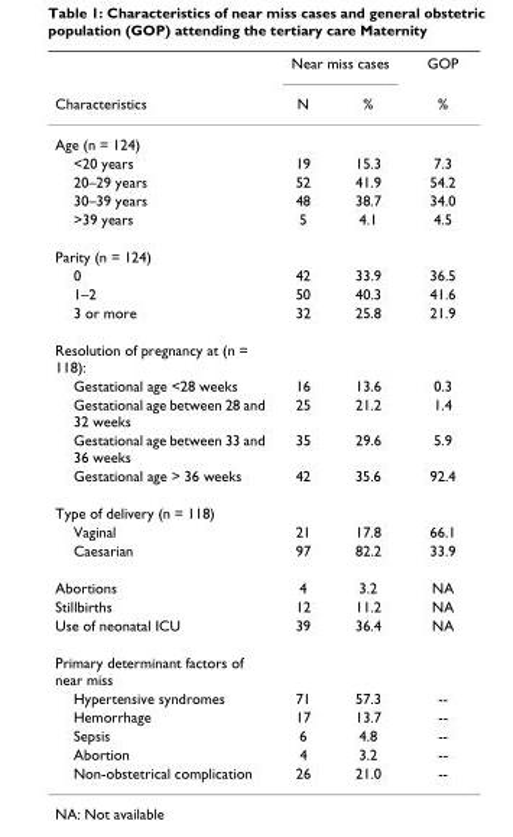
<table><thead><tr><td rowspan="2">Characteristics</td><td colspan="2">Near miss cases</td><td rowspan="2">GOP %</td></tr><tr><td>N</td><td>%</td></tr></thead><tbody><tr><td colspan="4">Age (n = 124)</td></tr><tr><td>&lt;20 years</td><td>19</td><td>15.3</td><td>7.3</td></tr><tr><td>20–29 years</td><td>52</td><td>41.9</td><td>54.2</td></tr><tr><td>30–39 years</td><td>48</td><td>38.7</td><td>34.0</td></tr><tr><td>&gt;39 years</td><td>5</td><td>4.1</td><td>4.5</td></tr><tr><td colspan="4">Parity (n = 124)</td></tr><tr><td>0</td><td>42</td><td>33.9</td><td>36.5</td></tr><tr><td>1–2</td><td>50</td><td>40.3</td><td>41.6</td></tr><tr><td>3 or more</td><td>32</td><td>25.8</td><td>21.9</td></tr><tr><td colspan="4">Resolution of pregnancy at (n = 118):</td></tr><tr><td>Gestational age &lt;28 weeks</td><td>16</td><td>13.6</td><td>0.3</td></tr><tr><td>Gestational age between 28 and 32 weeks</td><td>25</td><td>21.2</td><td>1.4</td></tr><tr><td>Gestational age between 33 and 36 weeks</td><td>35</td><td>29.6</td><td>5.9</td></tr><tr><td>Gestational age &gt; 36 weeks</td><td>42</td><td>35.6</td><td>92.4</td></tr><tr><td colspan="4">Type of delivery (n = 118)</td></tr><tr><td>Vaginal</td><td>21</td><td>17.8</td><td>66.1</td></tr><tr><td>Caesarian</td><td>97</td><td>82.2</td><td>33.9</td></tr><tr><td>Abortions</td><td>4</td><td>3.2</td><td>NA</td></tr><tr><td>Stillbirths</td><td>12</td><td>11.2</td><td>NA</td></tr><tr><td>Use of neonatal ICU</td><td>39</td><td>36.4</td><td>NA</td></tr><tr><td colspan="4">Primary determinant factors of near miss</td></tr><tr><td>Hypertensive syndromes</td><td>71</td><td>57.3</td><td>--</td></tr><tr><td>Hemorrhage</td><td>17</td><td>13.7</td><td>--</td></tr><tr><td>Sepsis</td><td>6</td><td>4.8</td><td>--</td></tr><tr><td>Abortion</td><td>4</td><td>3.2</td><td>--</td></tr><tr><td>Non-obstetrical complication</td><td>26</td><td>21.0</td><td>--</td></tr></tbody></table>